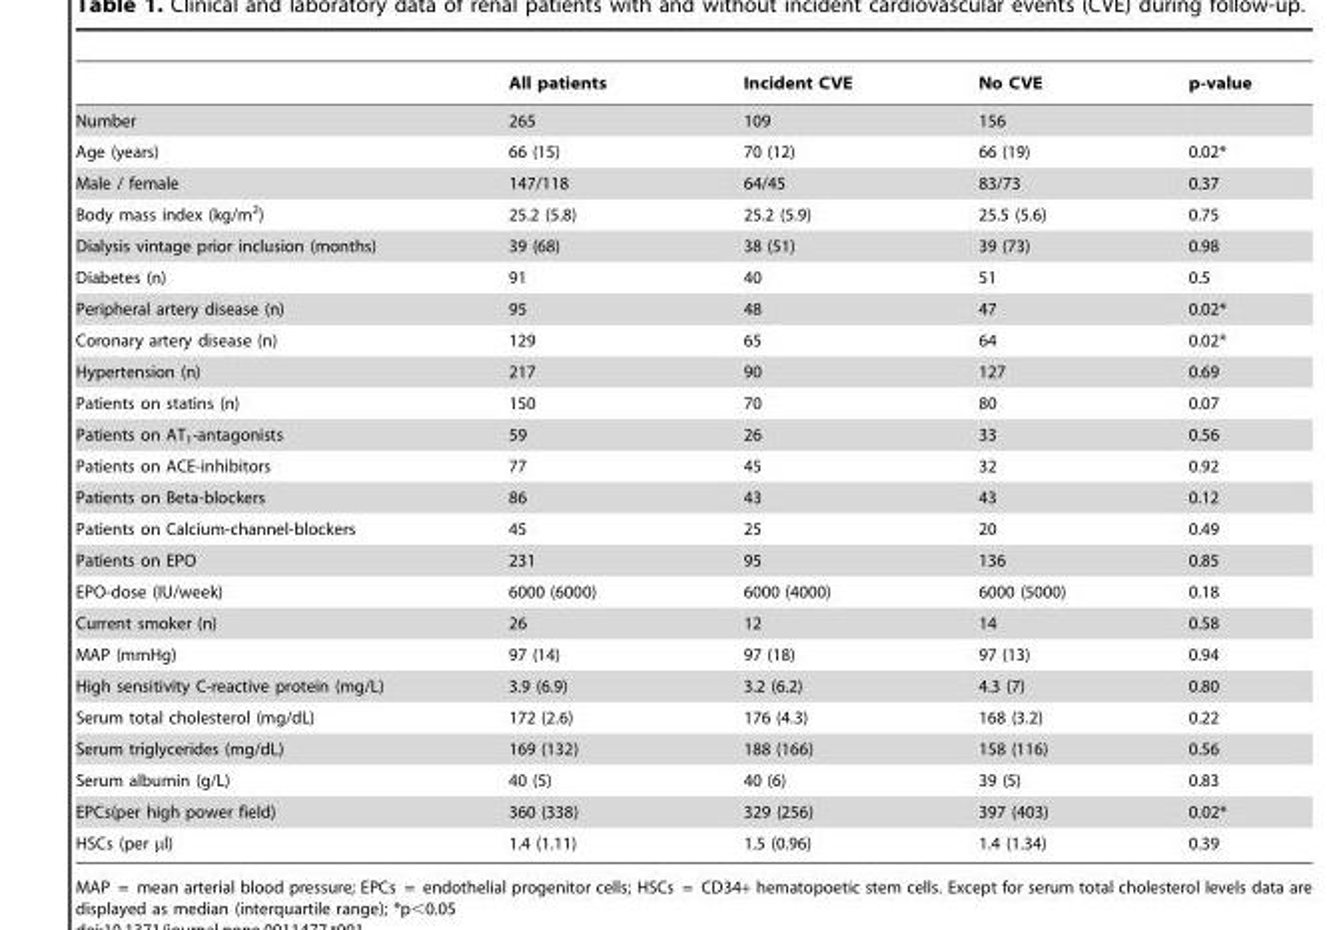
<table><thead><tr><td></td><td>All patients</td><td>Incident CVE</td><td>No CVE</td><td>p-value</td></tr></thead><tbody><tr><td>Number</td><td>265</td><td>109</td><td>156</td><td></td></tr><tr><td>Age (years)</td><td>66 (15)</td><td>70 (12)</td><td>66 (19)</td><td>0.02*</td></tr><tr><td>Male / female</td><td>147/118</td><td>64/45</td><td>83/73</td><td>0.37</td></tr><tr><td>Body mass index (kg/m<sup>2</sup>)</td><td>25.2 (5.8)</td><td>25.2 (5.9)</td><td>25.5 (5.6)</td><td>0.75</td></tr><tr><td>Dialysis vintage prior inclusion (months)</td><td>39 (68)</td><td>38 (51)</td><td>39 (73)</td><td>0.98</td></tr><tr><td>Diabetes (n)</td><td>91</td><td>40</td><td>51</td><td>0.5</td></tr><tr><td>Peripheral artery disease (n)</td><td>95</td><td>48</td><td>47</td><td>0.02*</td></tr><tr><td>Coronary artery disease (n)</td><td>129</td><td>65</td><td>64</td><td>0.02*</td></tr><tr><td>Hypertension (n)</td><td>217</td><td>90</td><td>127</td><td>0.69</td></tr><tr><td>Patients on statins (n)</td><td>150</td><td>70</td><td>80</td><td>0.07</td></tr><tr><td>Patients on AT<sub>1</sub>-antagonists</td><td>59</td><td>26</td><td>33</td><td>0.56</td></tr><tr><td>Patients on ACE-inhibitors</td><td>77</td><td>45</td><td>32</td><td>0.92</td></tr><tr><td>Patients on Beta-blockers</td><td>86</td><td>43</td><td>43</td><td>0.12</td></tr><tr><td>Patients on Calcium-channel-blockers</td><td>45</td><td>25</td><td>20</td><td>0.49</td></tr><tr><td>Patients on EPO</td><td>231</td><td>95</td><td>136</td><td>0.85</td></tr><tr><td>EPO-dose (IU/week)</td><td>6000 (6000)</td><td>6000 (4000)</td><td>6000 (5000)</td><td>0.18</td></tr><tr><td>Current smoker (n)</td><td>26</td><td>12</td><td>14</td><td>0.58</td></tr><tr><td>MAP (mmHg)</td><td>97 (14)</td><td>97 (18)</td><td>97 (13)</td><td>0.94</td></tr><tr><td>High sensitivity C-reactive protein (mg/L)</td><td>3.9 (6.9)</td><td>3.2 (6.2)</td><td>4.3 (7)</td><td>0.80</td></tr><tr><td>Serum total cholesterol (mg/dL)</td><td>172 (2.6)</td><td>176 (4.3)</td><td>168 (3.2)</td><td>0.22</td></tr><tr><td>Serum triglycerides (mg/dL)</td><td>169 (132)</td><td>188 (166)</td><td>158 (116)</td><td>0.56</td></tr><tr><td>Serum albumin (g/L)</td><td>40 (5)</td><td>40 (6)</td><td>39 (5)</td><td>0.83</td></tr><tr><td>EPCs(per high power field)</td><td>360 (338)</td><td>329 (256)</td><td>397 (403)</td><td>0.02*</td></tr><tr><td>HSCs (per μl)</td><td>1.4 (1.11)</td><td>1.5 (0.96)</td><td>1.4 (1.34)</td><td>0.39</td></tr></tbody></table>